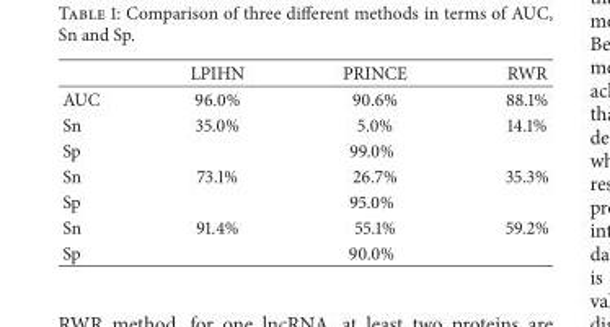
<table><thead><tr><td></td><td>LPIHN</td><td>PRINCE</td><td>RWR</td></tr></thead><tbody><tr><td>AUC</td><td>96.0%</td><td>90.6%</td><td>88.1%</td></tr><tr><td>Sn</td><td>35.0%</td><td>5.0%</td><td>14.1%</td></tr><tr><td>Sp</td><td colspan="3">99.0%</td></tr><tr><td>Sn</td><td>73.1%</td><td>26.7%</td><td>35.3%</td></tr><tr><td>Sp</td><td colspan="3">95.0%</td></tr><tr><td>Sn</td><td>91.4%</td><td>55.1%</td><td>59.2%</td></tr><tr><td>Sp</td><td colspan="3">90.0%</td></tr></tbody></table>